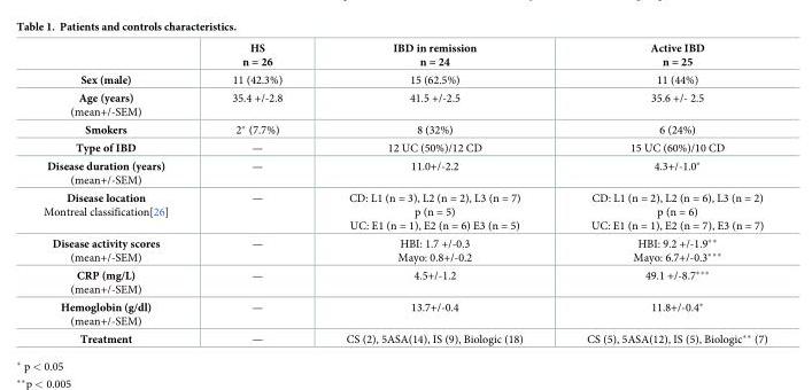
<table><thead><tr><td></td><td>HS n = 26</td><td>IBD in remission n = 24</td><td>Active IBD n = 25</td></tr></thead><tbody><tr><td>Sex (male)</td><td>11 (42.3%)</td><td>15 (62.5%)</td><td>11 (44%)</td></tr><tr><td>Age (years) (mean+/-SEM)</td><td>35.4 +/-2.8</td><td>41.5 +/-2.5</td><td>35.6 +/- 2.5</td></tr><tr><td>Smokers</td><td>2* (7.7%)</td><td>8 (32%)</td><td>6 (24%)</td></tr><tr><td>Type of IBD</td><td>—</td><td>12 UC (50%)/12 CD</td><td>15 UC (60%)/10 CD</td></tr><tr><td>Disease duration (years) (mean+/-SEM)</td><td>—</td><td>11.0+/-2.2</td><td>4.3+/-1.0*</td></tr><tr><td>Disease location Montreal classification[26]</td><td>—</td><td>CD: L1 (n = 3), L2 (n = 2), L3 (n = 7) p (n = 5) UC: E1 (n = 1), E2 (n = 6) E3 (n = 5)</td><td>CD: L1 (n = 2), L2 (n = 6), L3 (n = 2) p (n = 6) UC: E1 (n = 1), E2 (n = 7), E3 (n = 7)</td></tr><tr><td>Disease activity scores (mean+/-SEM)</td><td>—</td><td>HBI: 1.7 +/-0.3 Mayo: 0.8+/-0.2</td><td>HBI: 9.2 +/-1.9** Mayo: 6.7+/-0.3***</td></tr><tr><td>CRP (mg/L) (mean+/-SEM)</td><td>—</td><td>4.5+/-1.2</td><td>49.1 +/-8.7***</td></tr><tr><td>Hemoglobin (g/dl) (mean+/-SEM)</td><td>—</td><td>13.7+/-0.4</td><td>11.8+/-0.4*</td></tr><tr><td>Treatment</td><td>—</td><td>CS (2), 5ASA(14), IS (9), Biologic (18)</td><td>CS (5), 5ASA(12), IS (5), Biologic** (7)</td></tr></tbody></table>